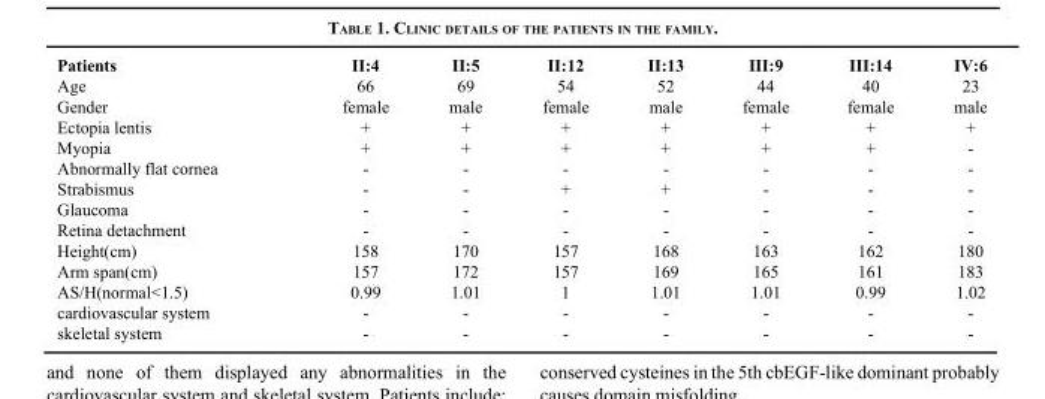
<table><thead><tr><td>Patients</td><td>II:4</td><td>II:5</td><td>II:12</td><td>II:13</td><td>III:9</td><td>III:14</td><td>IV:6</td></tr></thead><tbody><tr><td>Age</td><td>66</td><td>69</td><td>54</td><td>52</td><td>44</td><td>40</td><td>23</td></tr><tr><td>Gender</td><td>female</td><td>male</td><td>female</td><td>male</td><td>female</td><td>female</td><td>male</td></tr><tr><td>Ectopia lentis</td><td>+</td><td>+</td><td>+</td><td>+</td><td>+</td><td>+</td><td>+</td></tr><tr><td>Myopia</td><td>+</td><td>+</td><td>+</td><td>+</td><td>+</td><td>+</td><td>-</td></tr><tr><td>Abnormally flat cornea</td><td>-</td><td>-</td><td>-</td><td>-</td><td>-</td><td>-</td><td>-</td></tr><tr><td>Strabismus</td><td>-</td><td>-</td><td>+</td><td>+</td><td>-</td><td>-</td><td>-</td></tr><tr><td>Glaucoma</td><td>-</td><td>-</td><td>-</td><td>-</td><td>-</td><td>-</td><td>-</td></tr><tr><td>Retina detachment</td><td>-</td><td>-</td><td>-</td><td>-</td><td>-</td><td>-</td><td>-</td></tr><tr><td>Height(cm)</td><td>158</td><td>170</td><td>157</td><td>168</td><td>163</td><td>162</td><td>180</td></tr><tr><td>Arm span(cm)</td><td>157</td><td>172</td><td>157</td><td>169</td><td>165</td><td>161</td><td>183</td></tr><tr><td>AS/H(normal&lt;1.5)</td><td>0.99</td><td>1.01</td><td>1</td><td>1.01</td><td>1.01</td><td>0.99</td><td>1.02</td></tr><tr><td>cardiovascular system</td><td>-</td><td>-</td><td>-</td><td>-</td><td>-</td><td>-</td><td>-</td></tr><tr><td>skeletal system</td><td>-</td><td>-</td><td>-</td><td>-</td><td>-</td><td>-</td><td>-</td></tr></tbody></table>